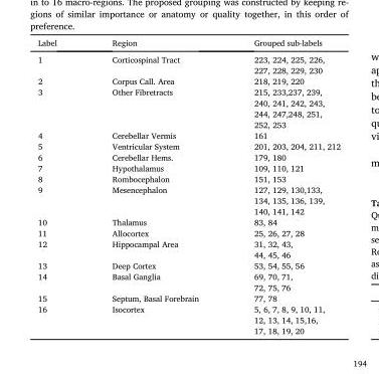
<table><thead><tr><td>Label</td><td>Region</td><td>Grouped sub-labels</td></tr></thead><tbody><tr><td rowspan="2">1</td><td rowspan="2">Corticospinal Tract</td><td>223, 224, 225, 226,</td></tr><tr><td>227, 228, 229, 230</td></tr><tr><td>2</td><td>Corpus Call. Area</td><td>218, 219, 220</td></tr><tr><td rowspan="4">3</td><td rowspan="4">Other Fibretracts</td><td>215, 233,237, 239,</td></tr><tr><td>240, 241, 242, 243,</td></tr><tr><td>244, 247,248, 251,</td></tr><tr><td>252, 253</td></tr><tr><td>4</td><td>Cerebellar Vermis</td><td>161</td></tr><tr><td>5</td><td>Ventricular System</td><td>201, 203, 204, 211, 212</td></tr><tr><td>6</td><td>Cerebellar Hems.</td><td>179, 180</td></tr><tr><td>7</td><td>Hypothalamus</td><td>109, 110, 121</td></tr><tr><td>8</td><td>Rombocephalon</td><td>151, 153</td></tr><tr><td rowspan="3">9</td><td rowspan="3">Mesencephalon</td><td>127, 129, 130,133,</td></tr><tr><td>134, 135, 136, 139,</td></tr><tr><td>140, 141, 142</td></tr><tr><td>10</td><td>Thalamus</td><td>83, 84</td></tr><tr><td>11</td><td>Allocortex</td><td>25, 26, 27, 28</td></tr><tr><td rowspan="2">12</td><td rowspan="2">Hippocampal Area</td><td>31, 32, 43,</td></tr><tr><td>44, 45, 46</td></tr><tr><td>13</td><td>Deep Cortex</td><td>53, 54, 55, 56</td></tr><tr><td rowspan="2">14</td><td rowspan="2">Basal Ganglia</td><td>69, 70, 71,</td></tr><tr><td>72, 75, 76</td></tr><tr><td>15</td><td>Septum, Basal Forebrain</td><td>77, 78</td></tr><tr><td rowspan="3">16</td><td rowspan="3">Isocortex</td><td>5, 6, 7, 8, 9, 10, 11,</td></tr><tr><td>12, 13, 14, 15,16,</td></tr><tr><td>17, 18, 19, 20</td></tr></tbody></table>